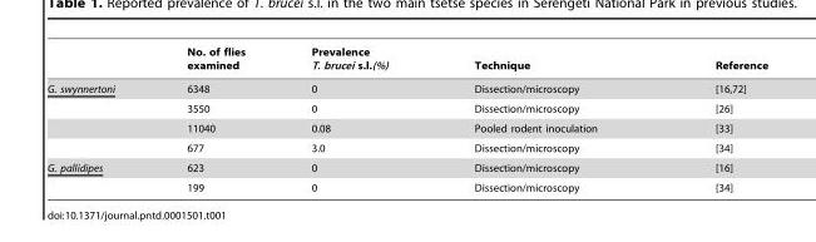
<table><thead><tr><td></td><td>No. of flies examined</td><td>Prevalence T. brucei s.l.(%)</td><td>Technique</td><td>Reference</td></tr></thead><tbody><tr><td rowspan="4">G. swynnertoni</td><td>6348</td><td>0</td><td>Dissection/microscopy</td><td>[16,72]</td></tr><tr><td>3550</td><td>0</td><td>Dissection/microscopy</td><td>[26]</td></tr><tr><td>11040</td><td>0.08</td><td>Pooled rodent inoculation</td><td>[33]</td></tr><tr><td>677</td><td>3.0</td><td>Dissection/microscopy</td><td>[34]</td></tr><tr><td rowspan="2">G. pallidipes</td><td>623</td><td>0</td><td>Dissection/microscopy</td><td>[16]</td></tr><tr><td>199</td><td>0</td><td>Dissection/microscopy</td><td>[34]</td></tr></tbody></table>